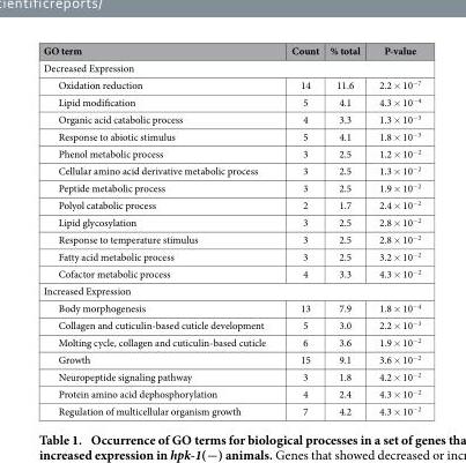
<table><thead><tr><td>GO term</td><td>Count</td><td>% total</td><td>P-value</td></tr></thead><tbody><tr><td colspan="4">Decreased Expression</td></tr><tr><td>Oxidation reduction</td><td>14</td><td>11.6</td><td>2.2 × 10<sup>−7</sup></td></tr><tr><td>Lipid modification</td><td>5</td><td>4.1</td><td>4.3 × 10<sup>−4</sup></td></tr><tr><td>Organic acid catabolic process</td><td>4</td><td>3.3</td><td>1.3 × 10<sup>−3</sup></td></tr><tr><td>Response to abiotic stimulus</td><td>5</td><td>4.1</td><td>1.8 × 10<sup>−3</sup></td></tr><tr><td>Phenol metabolic process</td><td>3</td><td>2.5</td><td>1.2 × 10<sup>−2</sup></td></tr><tr><td>Cellular amino acid derivative metabolic process</td><td>3</td><td>2.5</td><td>1.3 × 10<sup>−2</sup></td></tr><tr><td>Peptide metabolic process</td><td>3</td><td>2.5</td><td>1.9 × 10<sup>−2</sup></td></tr><tr><td>Polyol catabolic process</td><td>2</td><td>1.7</td><td>2.4 × 10<sup>−2</sup></td></tr><tr><td>Lipid glycosylation</td><td>3</td><td>2.5</td><td>2.8 × 10<sup>−2</sup></td></tr><tr><td>Response to temperature stimulus</td><td>3</td><td>2.5</td><td>2.8 × 10<sup>−2</sup></td></tr><tr><td>Fatty acid metabolic process</td><td>3</td><td>2.5</td><td>3.2 × 10<sup>−2</sup></td></tr><tr><td>Cofactor metabolic process</td><td>4</td><td>3.3</td><td>4.3 × 10<sup>−2</sup></td></tr><tr><td colspan="4">Increased Expression</td></tr><tr><td>Body morphogenesis</td><td>13</td><td>7.9</td><td>1.8 × 10<sup>−4</sup></td></tr><tr><td>Collagen and cuticulin-based cuticle development</td><td>5</td><td>3.0</td><td>2.2 × 10<sup>−3</sup></td></tr><tr><td>Molting cycle, collagen and cuticulin-based cuticle</td><td>6</td><td>3.6</td><td>1.9 × 10<sup>−2</sup></td></tr><tr><td>Growth</td><td>15</td><td>9.1</td><td>3.6 × 10<sup>−2</sup></td></tr><tr><td>Neuropeptide signaling pathway</td><td>3</td><td>1.8</td><td>4.2 × 10<sup>−2</sup></td></tr><tr><td>Protein amino acid dephosphorylation</td><td>4</td><td>2.4</td><td>4.3 × 10<sup>−2</sup></td></tr><tr><td>Regulation of multicellular organism growth</td><td>7</td><td>4.2</td><td>4.3 × 10<sup>−2</sup></td></tr></tbody></table>